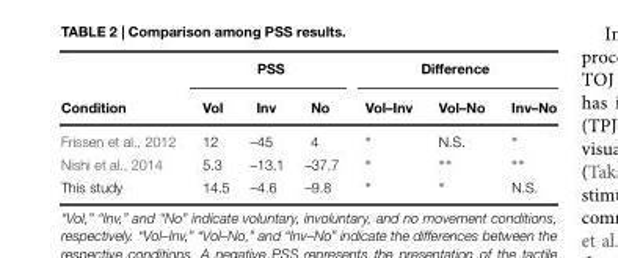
<table><thead><tr><td rowspan="2">Condition</td><td colspan="3">PSS</td><td colspan="3">Difference</td></tr><tr><td>Vol</td><td>Inv</td><td>No</td><td>Vol–Inv</td><td>Vol–No</td><td>Inv–No</td></tr></thead><tbody><tr><td>Frissen et al., 2012</td><td>12</td><td>–45</td><td>4</td><td>∗</td><td>N.S.</td><td>∗</td></tr><tr><td>Nishi et al., 2014</td><td>5.3</td><td>–13.1</td><td>–37.7</td><td>∗</td><td>∗∗</td><td>∗∗</td></tr><tr><td>This study</td><td>14.5</td><td>–4.6</td><td>–9.8</td><td>∗</td><td>∗</td><td>N.S.</td></tr></tbody></table>